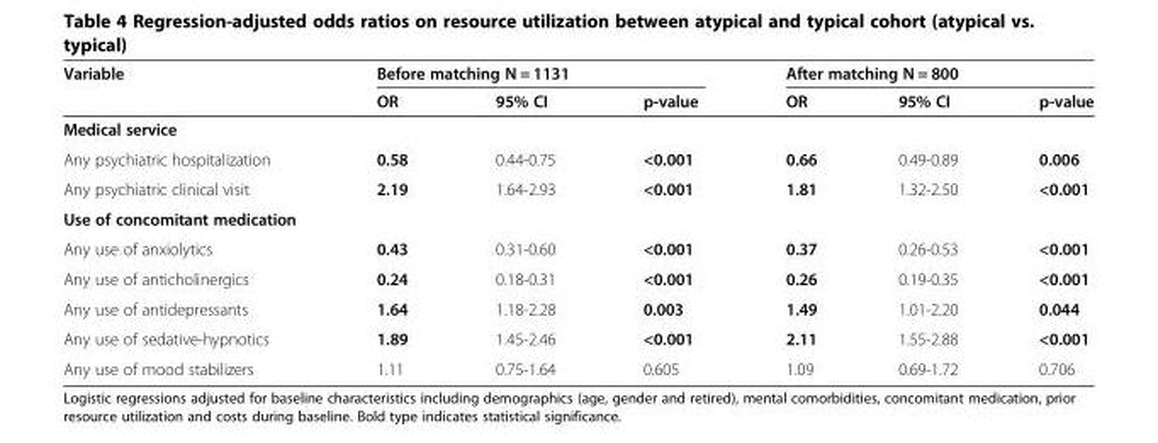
<table><thead><tr><td rowspan="2">Variable</td><td colspan="3">Before matching N = 1131</td><td colspan="3">After matching N = 800</td></tr><tr><td>OR</td><td>95% CI</td><td>p-value</td><td>OR</td><td>95% CI</td><td>p-value</td></tr></thead><tbody><tr><td colspan="7">Medical service</td></tr><tr><td>Any psychiatric hospitalization</td><td>0.58</td><td>0.44-0.75</td><td>&lt;0.001</td><td>0.66</td><td>0.49-0.89</td><td>0.006</td></tr><tr><td>Any psychiatric clinical visit</td><td>2.19</td><td>1.64-2.93</td><td>&lt;0.001</td><td>1.81</td><td>1.32-2.50</td><td>&lt;0.001</td></tr><tr><td colspan="7">Use of concomitant medication</td></tr><tr><td>Any use of anxiolytics</td><td>0.43</td><td>0.31-0.60</td><td>&lt;0.001</td><td>0.37</td><td>0.26-0.53</td><td>&lt;0.001</td></tr><tr><td>Any use of anticholinergics</td><td>0.24</td><td>0.18-0.31</td><td>&lt;0.001</td><td>0.26</td><td>0.19-0.35</td><td>&lt;0.001</td></tr><tr><td>Any use of antidepressants</td><td>1.64</td><td>1.18-2.28</td><td>0.003</td><td>1.49</td><td>1.01-2.20</td><td>0.044</td></tr><tr><td>Any use of sedative-hypnotics</td><td>1.89</td><td>1.45-2.46</td><td>&lt;0.001</td><td>2.11</td><td>1.55-2.88</td><td>&lt;0.001</td></tr><tr><td>Any use of mood stabilizers</td><td>1.11</td><td>0.75-1.64</td><td>0.605</td><td>1.09</td><td>0.69-1.72</td><td>0.706</td></tr></tbody></table>